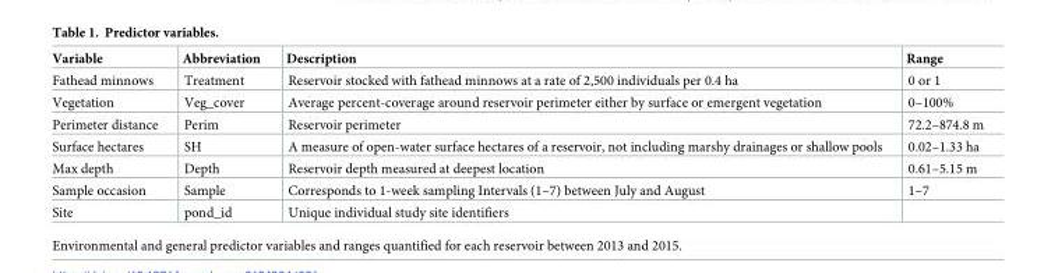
<table><thead><tr><td>Variable</td><td>Abbreviation</td><td>Description</td><td>Range</td></tr></thead><tbody><tr><td>Fathead minnows</td><td>Treatment</td><td>Reservoir stocked with fathead minnows at a rate of 2,500 individuals per 0.4 ha</td><td>0 or 1</td></tr><tr><td>Vegetation</td><td>Veg_cover</td><td>Average percent-coverage around reservoir perimeter either by surface or emergent vegetation</td><td>0–100%</td></tr><tr><td>Perimeter distance</td><td>Perim</td><td>Reservoir perimeter</td><td>72.2–874.8 m</td></tr><tr><td>Surface hectares</td><td>SH</td><td>A measure of open-water surface hectares of a reservoir, not including marshy drainages or shallow pools</td><td>0.02–1.33 ha</td></tr><tr><td>Max depth</td><td>Depth</td><td>Reservoir depth measured at deepest location</td><td>0.61–5.15 m</td></tr><tr><td>Sample occasion</td><td>Sample</td><td>Corresponds to 1-week sampling Intervals (1–7) between July and August</td><td>1–7</td></tr><tr><td>Site</td><td>pond_id</td><td>Unique individual study site identifiers</td><td></td></tr></tbody></table>